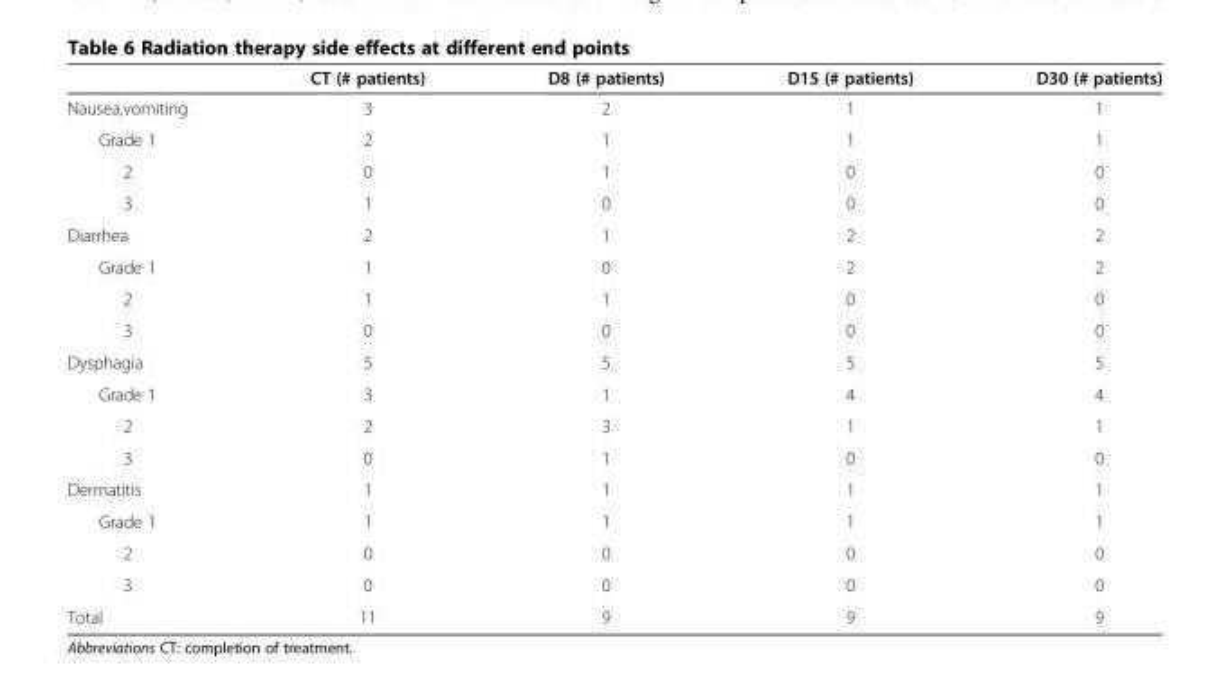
<table><thead><tr><td></td><td>CT (# patients)</td><td>D8 (# patients)</td><td>D15 (# patients)</td><td>D30 (# patients)</td></tr></thead><tbody><tr><td>Nausea,vomiting</td><td>3</td><td>2</td><td>1</td><td>1</td></tr><tr><td>Grade 1</td><td>2</td><td>1</td><td>1</td><td>1</td></tr><tr><td>2</td><td>0</td><td>1</td><td>0</td><td>0</td></tr><tr><td>3</td><td>1</td><td>0</td><td>0</td><td>0</td></tr><tr><td>Diarrhea</td><td>2</td><td>1</td><td>2</td><td>2</td></tr><tr><td>Grade 1</td><td>1</td><td>0</td><td>2</td><td>2</td></tr><tr><td>2</td><td>1</td><td>1</td><td>0</td><td>0</td></tr><tr><td>3</td><td>0</td><td>0</td><td>0</td><td>0</td></tr><tr><td>Dysphagia</td><td>5</td><td>5</td><td>5</td><td>5</td></tr><tr><td>Grade 1</td><td>3</td><td>1</td><td>4</td><td>4</td></tr><tr><td>2</td><td>2</td><td>3</td><td>1</td><td>1</td></tr><tr><td>3</td><td>0</td><td>1</td><td>0</td><td>0</td></tr><tr><td>Dermatitis</td><td>1</td><td>1</td><td>1</td><td>1</td></tr><tr><td>Grade 1</td><td>1</td><td>1</td><td>1</td><td>1</td></tr><tr><td>2</td><td>0</td><td>0</td><td>0</td><td>0</td></tr><tr><td>3</td><td>0</td><td>0</td><td>0</td><td>0</td></tr><tr><td>Total</td><td>11</td><td>9</td><td>9</td><td>9</td></tr></tbody></table>